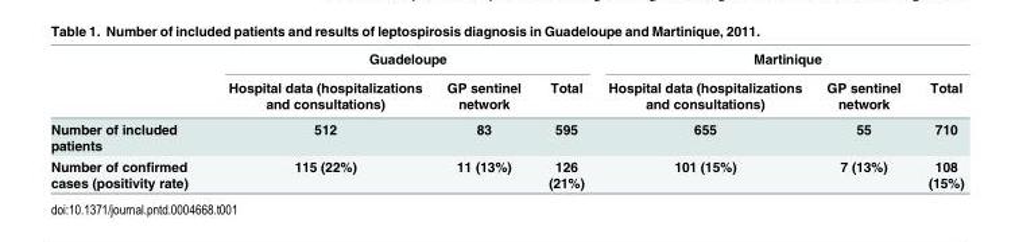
<table><thead><tr><td rowspan="2"></td><td colspan="3">Guadeloupe</td><td colspan="3">Martinique</td></tr><tr><td>Hospital data (hospitalizations and consultations)</td><td>GP sentinel network</td><td>Total</td><td>Hospital data (hospitalizations and consultations)</td><td>GP sentinel network</td><td>Total</td></tr></thead><tbody><tr><td>Number of included patients</td><td>512</td><td>83</td><td>595</td><td>655</td><td>55</td><td>710</td></tr><tr><td>Number of confirmed cases (positivity rate)</td><td>115 (22%)</td><td>11 (13%)</td><td>126 (21%)</td><td>101 (15%)</td><td>7 (13%)</td><td>108 (15%)</td></tr></tbody></table>